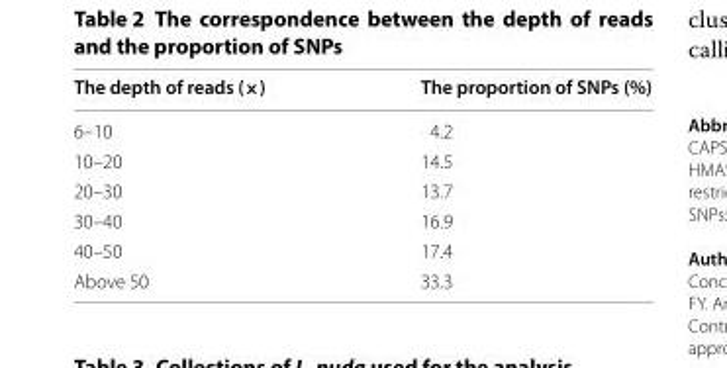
<table><thead><tr><td>The depth of reads (×)</td><td>The proportion of SNPs (%)</td></tr></thead><tbody><tr><td>6–10</td><td>4.2</td></tr><tr><td>10–20</td><td>14.5</td></tr><tr><td>20–30</td><td>13.7</td></tr><tr><td>30–40</td><td>16.9</td></tr><tr><td>40–50</td><td>17.4</td></tr><tr><td>Above 50</td><td>33.3</td></tr></tbody></table>